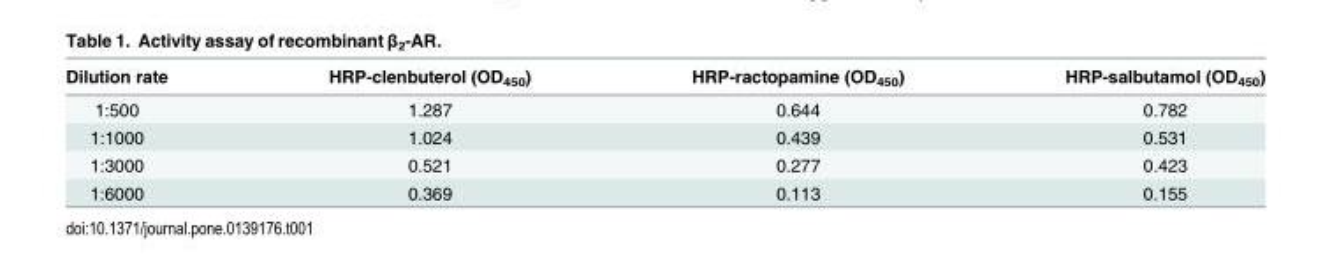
<table><thead><tr><td>Dilution rate</td><td>HRP-clenbuterol (OD<sub>450</sub>)</td><td>HRP-ractopamine (OD<sub>450</sub>)</td><td>HRP-salbutamol (OD<sub>450</sub>)</td></tr></thead><tbody><tr><td>1:500</td><td>1.287</td><td>0.644</td><td>0.782</td></tr><tr><td>1:1000</td><td>1.024</td><td>0.439</td><td>0.531</td></tr><tr><td>1:3000</td><td>0.521</td><td>0.277</td><td>0.423</td></tr><tr><td>1:6000</td><td>0.369</td><td>0.113</td><td>0.155</td></tr></tbody></table>